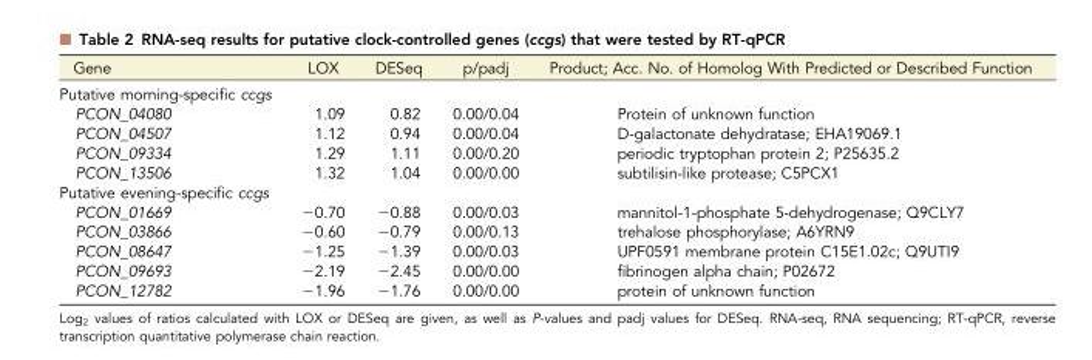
<table><thead><tr><td>Gene</td><td>LOX</td><td>DESeq</td><td>p/padj</td><td>Product; Acc. No. of Homolog With Predicted or Described Function</td></tr></thead><tbody><tr><td colspan="5">Putative morning-specific ccgs</td></tr><tr><td>PCON_04080</td><td>1.09</td><td>0.82</td><td>0.00/0.04</td><td>Protein of unknown function</td></tr><tr><td>PCON_04507</td><td>1.12</td><td>0.94</td><td>0.00/0.04</td><td>D-galactonate dehydratase; EHA19069.1</td></tr><tr><td>PCON_09334</td><td>1.29</td><td>1.11</td><td>0.00/0.20</td><td>periodic tryptophan protein 2; P25635.2</td></tr><tr><td>PCON_13506</td><td>1.32</td><td>1.04</td><td>0.00/0.00</td><td>subtilisin-like protease; C5PCX1</td></tr><tr><td colspan="5">Putative evening-specific ccgs</td></tr><tr><td>PCON_01669</td><td>−0.70</td><td>−0.88</td><td>0.00/0.03</td><td>mannitol-1-phosphate 5-dehydrogenase; Q9CLY7</td></tr><tr><td>PCON_03866</td><td>−0.60</td><td>−0.79</td><td>0.00/0.13</td><td>trehalose phosphorylase; A6YRN9</td></tr><tr><td>PCON_08647</td><td>−1.25</td><td>−1.39</td><td>0.00/0.03</td><td>UPF0591 membrane protein C15E1.02c; Q9UTI9</td></tr><tr><td>PCON_09693</td><td>−2.19</td><td>−2.45</td><td>0.00/0.00</td><td>fibrinogen alpha chain; P02672</td></tr><tr><td>PCON_12782</td><td>−1.96</td><td>−1.76</td><td>0.00/0.00</td><td>protein of unknown function</td></tr></tbody></table>